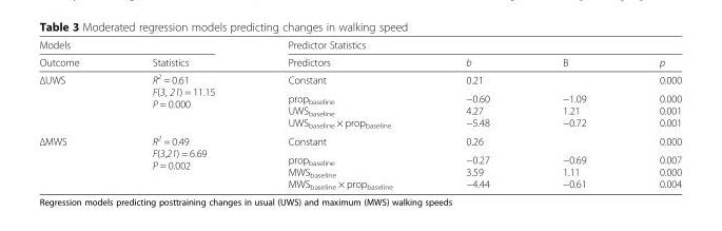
<table><thead><tr><td colspan="2">Models</td><td colspan="4">Predictor Statistics</td></tr><tr><td>Outcome</td><td>Statistics</td><td>Predictors</td><td>b</td><td>B</td><td>p</td></tr></thead><tbody><tr><td rowspan="2">ΔUWS</td><td rowspan="2">R<sup>2</sup> = 0.61 F(3, 21) = 11.15 P = 0.000</td><td>Constant</td><td>0.21</td><td></td><td>0.000</td></tr><tr><td>prop<sub>baseline</sub> UWS<sub>baseline</sub> UWS<sub>baseline</sub> × prop<sub>baseline</sub></td><td>−0.60 4.27 −5.48</td><td>−1.09 1.21 −0.72</td><td>0.000 0.001 0.001</td></tr><tr><td rowspan="2">ΔMWS</td><td rowspan="2">R<sup>2</sup> = 0.49 F(3,21) = 6.69 P = 0.002</td><td>Constant</td><td>0.26</td><td></td><td>0.000</td></tr><tr><td>prop<sub>baseline</sub> MWS<sub>baseline</sub> MWS<sub>baseline</sub> × prop<sub>baseline</sub></td><td>−0.27 3.59 −4.44</td><td>−0.69 1.11 −0.61</td><td>0.007 0.000 0.004</td></tr></tbody></table>